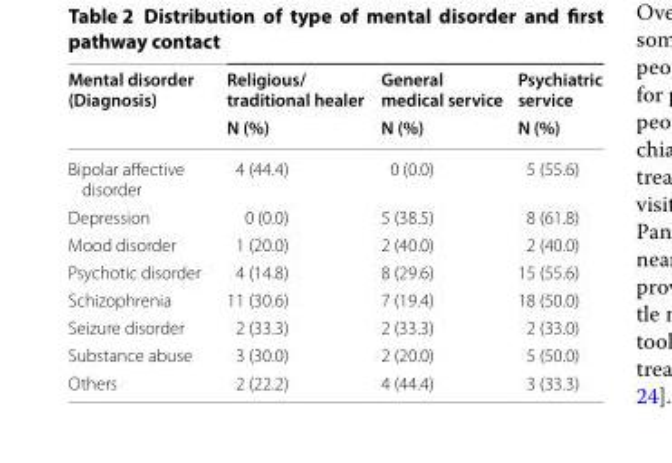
<table><thead><tr><td rowspan="2">Mental disorder (Diagnosis)</td><td rowspan="2">Religious/ traditional healer N (%)</td><td rowspan="2">General medical service N (%)</td><td rowspan="2">Psychiatric service N (%)</td></tr><tr></tr></thead><tbody><tr><td>Bipolar affective disorder</td><td>4 (44.4)</td><td>0 (0.0)</td><td>5 (55.6)</td></tr><tr><td>Depression</td><td>0 (0.0)</td><td>5 (38.5)</td><td>8 (61.8)</td></tr><tr><td>Mood disorder</td><td>1 (20.0)</td><td>2 (40.0)</td><td>2 (40.0)</td></tr><tr><td>Psychotic disorder</td><td>4 (14.8)</td><td>8 (29.6)</td><td>15 (55.6)</td></tr><tr><td>Schizophrenia</td><td>11 (30.6)</td><td>7 (19.4)</td><td>18 (50.0)</td></tr><tr><td>Seizure disorder</td><td>2 (33.3)</td><td>2 (33.3)</td><td>2 (33.0)</td></tr><tr><td>Substance abuse</td><td>3 (30.0)</td><td>2 (20.0)</td><td>5 (50.0)</td></tr><tr><td>Others</td><td>2 (22.2)</td><td>4 (44.4)</td><td>3 (33.3)</td></tr></tbody></table>